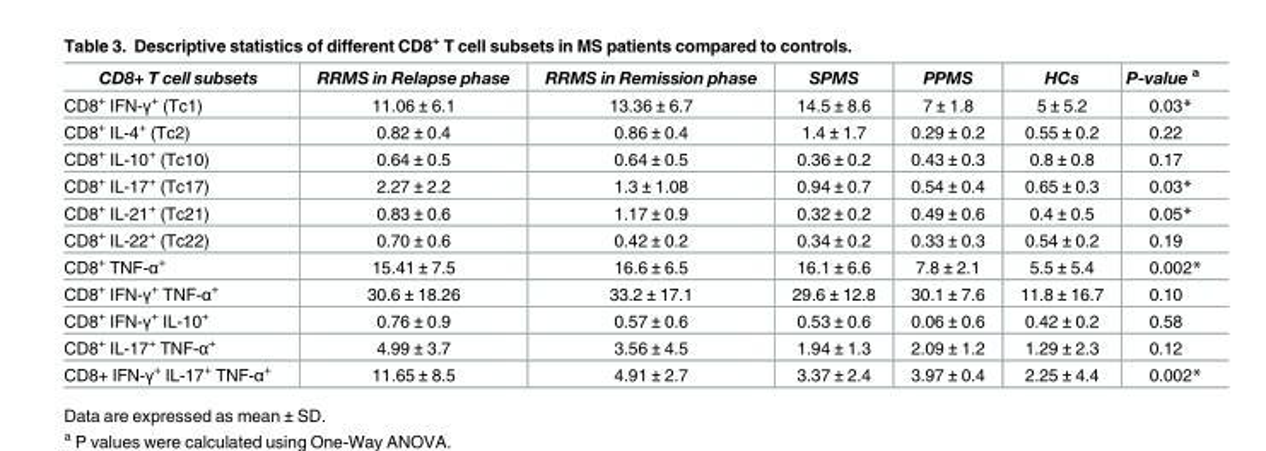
<table><thead><tr><td>CD8+ T cell subsets</td><td>RRMS in Relapse phase</td><td>RRMS in Remission phase</td><td>SPMS</td><td>PPMS</td><td>HCs</td><td>P-value <sup>a</sup></td></tr></thead><tbody><tr><td>CD8<sup>+</sup> IFN-γ<sup>+</sup> (Tc1)</td><td>11.06 ± 6.1</td><td>13.36 ± 6.7</td><td>14.5 ± 8.6</td><td>7 ± 1.8</td><td>5 ± 5.2</td><td>0.03*</td></tr><tr><td>CD8<sup>+</sup> IL-4<sup>+</sup> (Tc2)</td><td>0.82 ± 0.4</td><td>0.86 ± 0.4</td><td>1.4 ± 1.7</td><td>0.29 ± 0.2</td><td>0.55 ± 0.2</td><td>0.22</td></tr><tr><td>CD8<sup>+</sup> IL-10<sup>+</sup> (Tc10)</td><td>0.64 ± 0.5</td><td>0.64 ± 0.5</td><td>0.36 ± 0.2</td><td>0.43 ± 0.3</td><td>0.8 ± 0.8</td><td>0.17</td></tr><tr><td>CD8<sup>+</sup> IL-17<sup>+</sup> (Tc17)</td><td>2.27 ± 2.2</td><td>1.3 ± 1.08</td><td>0.94 ± 0.7</td><td>0.54 ± 0.4</td><td>0.65 ± 0.3</td><td>0.03*</td></tr><tr><td>CD8<sup>+</sup> IL-21<sup>+</sup> (Tc21)</td><td>0.83 ± 0.6</td><td>1.17 ± 0.9</td><td>0.32 ± 0.2</td><td>0.49 ± 0.6</td><td>0.4 ± 0.5</td><td>0.05*</td></tr><tr><td>CD8<sup>+</sup> IL-22<sup>+</sup> (Tc22)</td><td>0.70 ± 0.6</td><td>0.42 ± 0.2</td><td>0.34 ± 0.2</td><td>0.33 ± 0.3</td><td>0.54 ± 0.2</td><td>0.19</td></tr><tr><td>CD8<sup>+</sup> TNF-α<sup>+</sup></td><td>15.41 ± 7.5</td><td>16.6 ± 6.5</td><td>16.1 ± 6.6</td><td>7.8 ± 2.1</td><td>5.5 ± 5.4</td><td>0.002*</td></tr><tr><td>CD8<sup>+</sup> IFN-γ<sup>+</sup> TNF-α<sup>+</sup></td><td>30.6 ± 18.26</td><td>33.2 ± 17.1</td><td>29.6 ± 12.8</td><td>30.1 ± 7.6</td><td>11.8 ± 16.7</td><td>0.10</td></tr><tr><td>CD8<sup>+</sup> IFN-γ<sup>+</sup> IL-10<sup>+</sup></td><td>0.76 ± 0.9</td><td>0.57 ± 0.6</td><td>0.53 ± 0.6</td><td>0.06 ± 0.6</td><td>0.42 ± 0.2</td><td>0.58</td></tr><tr><td>CD8<sup>+</sup> IL-17<sup>+</sup> TNF-α<sup>+</sup></td><td>4.99 ± 3.7</td><td>3.56 ± 4.5</td><td>1.94 ± 1.3</td><td>2.09 ± 1.2</td><td>1.29 ± 2.3</td><td>0.12</td></tr><tr><td>CD8+ IFN-γ<sup>+</sup> IL-17<sup>+</sup> TNF-α<sup>+</sup></td><td>11.65 ± 8.5</td><td>4.91 ± 2.7</td><td>3.37 ± 2.4</td><td>3.97 ± 0.4</td><td>2.25 ± 4.4</td><td>0.002*</td></tr></tbody></table>